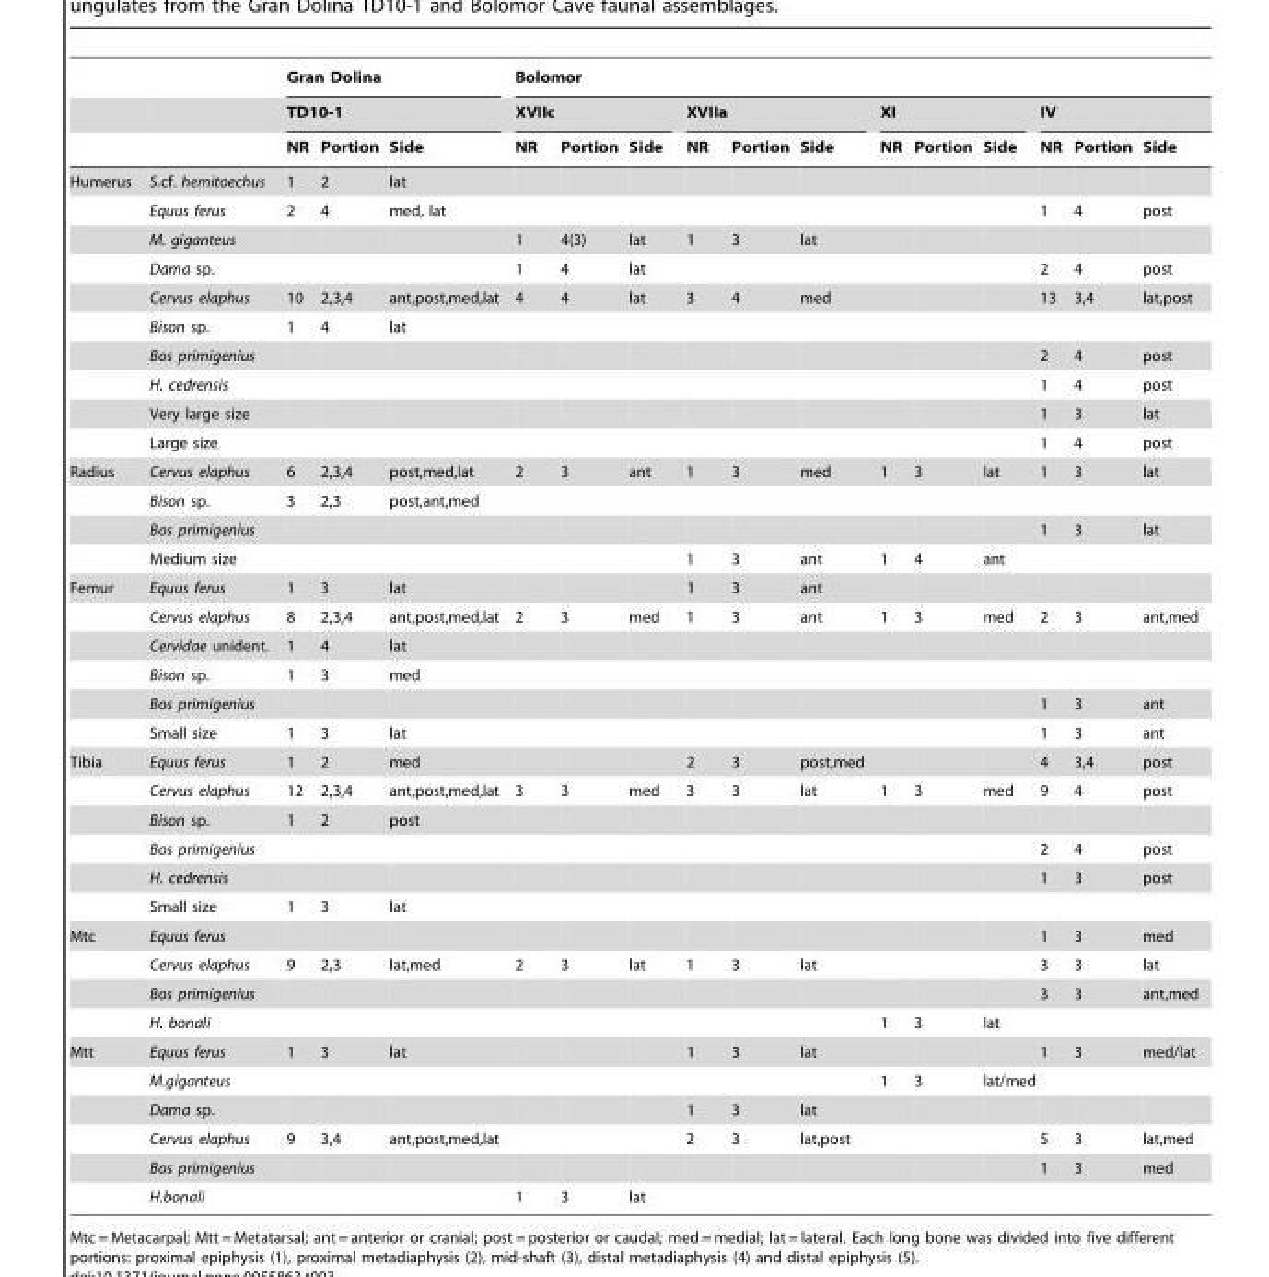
<table><thead><tr><td rowspan="3"></td><td rowspan="3"></td><td rowspan="2" colspan="3">Gran Dolina TD10-1</td><td colspan="12">Bolomor</td></tr><tr><td colspan="3">XVIIc</td><td colspan="3">XVIIa</td><td colspan="3">XI</td><td colspan="3">IV</td></tr><tr><td>NR</td><td>Portion</td><td>Side</td><td>NR</td><td>Portion</td><td>Side</td><td>NR</td><td>Portion</td><td>Side</td><td>NR</td><td>Portion</td><td>Side</td><td>NR</td><td>Portion</td><td>Side</td></tr></thead><tbody><tr><td rowspan="10">Humerus</td><td>S.cf. hemitoechus</td><td>1</td><td>2</td><td>lat</td><td></td><td></td><td></td><td></td><td></td><td></td><td></td><td></td><td></td><td></td><td></td><td></td></tr><tr><td>Equus ferus</td><td>2</td><td>4</td><td>med, lat</td><td></td><td></td><td></td><td></td><td></td><td></td><td></td><td></td><td></td><td>1</td><td>4</td><td>post</td></tr><tr><td>M. giganteus</td><td></td><td></td><td></td><td>1</td><td>4(3)</td><td>lat</td><td>1</td><td>3</td><td>lat</td><td></td><td></td><td></td><td></td><td></td><td></td></tr><tr><td>Dama sp.</td><td></td><td></td><td></td><td>1</td><td>4</td><td>lat</td><td></td><td></td><td></td><td></td><td></td><td></td><td>2</td><td>4</td><td>post</td></tr><tr><td>Cervus elaphus</td><td>10</td><td>2,3,4</td><td>ant,post,med,lat</td><td>4</td><td>4</td><td>lat</td><td>3</td><td>4</td><td>med</td><td></td><td></td><td></td><td>13</td><td>3,4</td><td>lat,post</td></tr><tr><td>Bison sp.</td><td>1</td><td>4</td><td>lat</td><td></td><td></td><td></td><td></td><td></td><td></td><td></td><td></td><td></td><td></td><td></td><td></td></tr><tr><td>Bos primigenius</td><td></td><td></td><td></td><td></td><td></td><td></td><td></td><td></td><td></td><td></td><td></td><td></td><td>2</td><td>4</td><td>post</td></tr><tr><td>H. cedrensis</td><td></td><td></td><td></td><td></td><td></td><td></td><td></td><td></td><td></td><td></td><td></td><td></td><td>1</td><td>4</td><td>post</td></tr><tr><td>Very large size</td><td></td><td></td><td></td><td></td><td></td><td></td><td></td><td></td><td></td><td></td><td></td><td></td><td>1</td><td>3</td><td>lat</td></tr><tr><td>Large size</td><td></td><td></td><td></td><td></td><td></td><td></td><td></td><td></td><td></td><td></td><td></td><td></td><td>1</td><td>4</td><td>post</td></tr><tr><td rowspan="4">Radius</td><td>Cervus elaphus</td><td>6</td><td>2,3,4</td><td>post,med,lat</td><td>2</td><td>3</td><td>ant</td><td>1</td><td>3</td><td>med</td><td>1</td><td>3</td><td>lat</td><td>1</td><td>3</td><td>lat</td></tr><tr><td>Bison sp.</td><td>3</td><td>2,3</td><td>post,ant,med</td><td></td><td></td><td></td><td></td><td></td><td></td><td></td><td></td><td></td><td></td><td></td><td></td></tr><tr><td>Bos primigenius</td><td></td><td></td><td></td><td></td><td></td><td></td><td></td><td></td><td></td><td></td><td></td><td></td><td>1</td><td>3</td><td>lat</td></tr><tr><td>Medium size</td><td></td><td></td><td></td><td></td><td></td><td></td><td>1</td><td>3</td><td>ant</td><td>1</td><td>4</td><td>ant</td><td></td><td></td><td></td></tr><tr><td rowspan="6">Femur</td><td>Equus ferus</td><td>1</td><td>3</td><td>lat</td><td></td><td></td><td></td><td>1</td><td>3</td><td>ant</td><td></td><td></td><td></td><td></td><td></td><td></td></tr><tr><td>Cervus elaphus</td><td>8</td><td>2,3,4</td><td>ant,post,med,lat</td><td>2</td><td>3</td><td>med</td><td>1</td><td>3</td><td>ant</td><td>1</td><td>3</td><td>med</td><td>2</td><td>3</td><td>ant,med</td></tr><tr><td>Cervidae unident.</td><td>1</td><td>4</td><td>lat</td><td></td><td></td><td></td><td></td><td></td><td></td><td></td><td></td><td></td><td></td><td></td><td></td></tr><tr><td>Bison sp.</td><td>1</td><td>3</td><td>med</td><td></td><td></td><td></td><td></td><td></td><td></td><td></td><td></td><td></td><td></td><td></td><td></td></tr><tr><td>Bos primigenius</td><td></td><td></td><td></td><td></td><td></td><td></td><td></td><td></td><td></td><td></td><td></td><td></td><td>1</td><td>3</td><td>ant</td></tr><tr><td>Small size</td><td>1</td><td>3</td><td>lat</td><td></td><td></td><td></td><td></td><td></td><td></td><td></td><td></td><td></td><td>1</td><td>3</td><td>ant</td></tr><tr><td rowspan="6">Tibia</td><td>Equus ferus</td><td>1</td><td>2</td><td>med</td><td></td><td></td><td></td><td>2</td><td>3</td><td>post,med</td><td></td><td></td><td></td><td>4</td><td>3,4</td><td>post</td></tr><tr><td>Cervus elaphus</td><td>12</td><td>2,3,4</td><td>ant,post,med,lat</td><td>3</td><td>3</td><td>med</td><td>3</td><td>3</td><td>lat</td><td>1</td><td>3</td><td>med</td><td>9</td><td>4</td><td>post</td></tr><tr><td>Bison sp.</td><td>1</td><td>2</td><td>post</td><td></td><td></td><td></td><td></td><td></td><td></td><td></td><td></td><td></td><td></td><td></td><td></td></tr><tr><td>Bos primigenius</td><td></td><td></td><td></td><td></td><td></td><td></td><td></td><td></td><td></td><td></td><td></td><td></td><td>2</td><td>4</td><td>post</td></tr><tr><td>H. cedrensis</td><td></td><td></td><td></td><td></td><td></td><td></td><td></td><td></td><td></td><td></td><td></td><td></td><td>1</td><td>3</td><td>post</td></tr><tr><td>Small size</td><td>1</td><td>3</td><td>lat</td><td></td><td></td><td></td><td></td><td></td><td></td><td></td><td></td><td></td><td></td><td></td><td></td></tr><tr><td rowspan="4">Mtc</td><td>Equus ferus</td><td></td><td></td><td></td><td></td><td></td><td></td><td></td><td></td><td></td><td></td><td></td><td></td><td>1</td><td>3</td><td>med</td></tr><tr><td>Cervus elaphus</td><td>9</td><td>2,3</td><td>lat,med</td><td>2</td><td>3</td><td>lat</td><td>1</td><td>3</td><td>lat</td><td></td><td></td><td></td><td>3</td><td>3</td><td>lat</td></tr><tr><td>Bos primigenius</td><td></td><td></td><td></td><td></td><td></td><td></td><td></td><td></td><td></td><td></td><td></td><td></td><td>3</td><td>3</td><td>ant,med</td></tr><tr><td>H. bonali</td><td></td><td></td><td></td><td></td><td></td><td></td><td></td><td></td><td></td><td>1</td><td>3</td><td>lat</td><td></td><td></td><td></td></tr><tr><td rowspan="6">Mtt</td><td>Equus ferus</td><td>1</td><td>3</td><td>lat</td><td></td><td></td><td></td><td>1</td><td>3</td><td>lat</td><td></td><td></td><td></td><td>1</td><td>3</td><td>med/lat</td></tr><tr><td>M.giganteus</td><td></td><td></td><td></td><td></td><td></td><td></td><td></td><td></td><td></td><td>1</td><td>3</td><td>lat/med</td><td></td><td></td><td></td></tr><tr><td>Dama sp.</td><td></td><td></td><td></td><td></td><td></td><td></td><td>1</td><td>3</td><td>lat</td><td></td><td></td><td></td><td></td><td></td><td></td></tr><tr><td>Cervus elaphus</td><td>9</td><td>3,4</td><td>ant,post,med,lat</td><td></td><td></td><td></td><td>2</td><td>3</td><td>lat,post</td><td></td><td></td><td></td><td>5</td><td>3</td><td>lat,med</td></tr><tr><td>Bos primigenius</td><td></td><td></td><td></td><td></td><td></td><td></td><td></td><td></td><td></td><td></td><td></td><td></td><td>1</td><td>3</td><td>med</td></tr><tr><td>H.bonali</td><td></td><td></td><td></td><td>1</td><td>3</td><td>lat</td><td></td><td></td><td></td><td></td><td></td><td></td><td></td><td></td><td></td></tr></tbody></table>